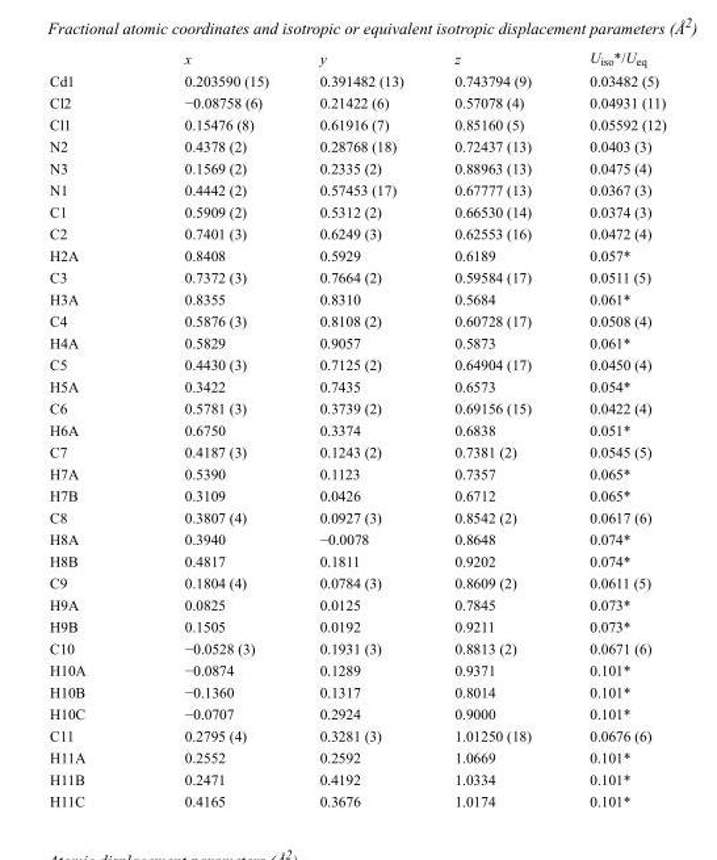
<table><thead><tr><td></td><td>x</td><td>y</td><td>z</td><td>U<sub>iso</sub>*/U<sub>eq</sub></td></tr></thead><tbody><tr><td>Cd1</td><td>0.203590 (15)</td><td>0.391482 (13)</td><td>0.743794 (9)</td><td>0.03482 (5)</td></tr><tr><td>Cl2</td><td>−0.08758 (6)</td><td>0.21422 (6)</td><td>0.57078 (4)</td><td>0.04931 (11)</td></tr><tr><td>Cl1</td><td>0.15476 (8)</td><td>0.61916 (7)</td><td>0.85160 (5)</td><td>0.05592 (12)</td></tr><tr><td>N2</td><td>0.4378 (2)</td><td>0.28768 (18)</td><td>0.72437 (13)</td><td>0.0403 (3)</td></tr><tr><td>N3</td><td>0.1569 (2)</td><td>0.2335 (2)</td><td>0.88963 (13)</td><td>0.0475 (4)</td></tr><tr><td>N1</td><td>0.4442 (2)</td><td>0.57453 (17)</td><td>0.67777 (13)</td><td>0.0367 (3)</td></tr><tr><td>C1</td><td>0.5909 (2)</td><td>0.5312 (2)</td><td>0.66530 (14)</td><td>0.0374 (3)</td></tr><tr><td>C2</td><td>0.7401 (3)</td><td>0.6249 (3)</td><td>0.62553 (16)</td><td>0.0472 (4)</td></tr><tr><td>H2A</td><td>0.8408</td><td>0.5929</td><td>0.6189</td><td>0.057*</td></tr><tr><td>C3</td><td>0.7372 (3)</td><td>0.7664 (2)</td><td>0.59584 (17)</td><td>0.0511 (5)</td></tr><tr><td>H3A</td><td>0.8355</td><td>0.8310</td><td>0.5684</td><td>0.061*</td></tr><tr><td>C4</td><td>0.5876 (3)</td><td>0.8108 (2)</td><td>0.60728 (17)</td><td>0.0508 (4)</td></tr><tr><td>H4A</td><td>0.5829</td><td>0.9057</td><td>0.5873</td><td>0.061*</td></tr><tr><td>C5</td><td>0.4430 (3)</td><td>0.7125 (2)</td><td>0.64904 (17)</td><td>0.0450 (4)</td></tr><tr><td>H5A</td><td>0.3422</td><td>0.7435</td><td>0.6573</td><td>0.054*</td></tr><tr><td>C6</td><td>0.5781 (3)</td><td>0.3739 (2)</td><td>0.69156 (15)</td><td>0.0422 (4)</td></tr><tr><td>H6A</td><td>0.6750</td><td>0.3374</td><td>0.6838</td><td>0.051*</td></tr><tr><td>C7</td><td>0.4187 (3)</td><td>0.1243 (2)</td><td>0.7381 (2)</td><td>0.0545 (5)</td></tr><tr><td>H7A</td><td>0.5390</td><td>0.1123</td><td>0.7357</td><td>0.065*</td></tr><tr><td>H7B</td><td>0.3109</td><td>0.0426</td><td>0.6712</td><td>0.065*</td></tr><tr><td>C8</td><td>0.3807 (4)</td><td>0.0927 (3)</td><td>0.8542 (2)</td><td>0.0617 (6)</td></tr><tr><td>H8A</td><td>0.3940</td><td>−0.0078</td><td>0.8648</td><td>0.074*</td></tr><tr><td>H8B</td><td>0.4817</td><td>0.1811</td><td>0.9202</td><td>0.074*</td></tr><tr><td>C9</td><td>0.1804 (4)</td><td>0.0784 (3)</td><td>0.8609 (2)</td><td>0.0611 (5)</td></tr><tr><td>H9A</td><td>0.0825</td><td>0.0125</td><td>0.7845</td><td>0.073*</td></tr><tr><td>H9B</td><td>0.1505</td><td>0.0192</td><td>0.9211</td><td>0.073*</td></tr><tr><td>C10</td><td>−0.0528 (3)</td><td>0.1931 (3)</td><td>0.8813 (2)</td><td>0.0671 (6)</td></tr><tr><td>H10A</td><td>−0.0874</td><td>0.1289</td><td>0.9371</td><td>0.101*</td></tr><tr><td>H10B</td><td>−0.1360</td><td>0.1317</td><td>0.8014</td><td>0.101*</td></tr><tr><td>H10C</td><td>−0.0707</td><td>0.2924</td><td>0.9000</td><td>0.101*</td></tr><tr><td>C11</td><td>0.2795 (4)</td><td>0.3281 (3)</td><td>1.01250 (18)</td><td>0.0676 (6)</td></tr><tr><td>H11A</td><td>0.2552</td><td>0.2592</td><td>1.0669</td><td>0.101*</td></tr><tr><td>H11B</td><td>0.2471</td><td>0.4192</td><td>1.0334</td><td>0.101*</td></tr><tr><td>H11C</td><td>0.4165</td><td>0.3676</td><td>1.0174</td><td>0.101*</td></tr></tbody></table>